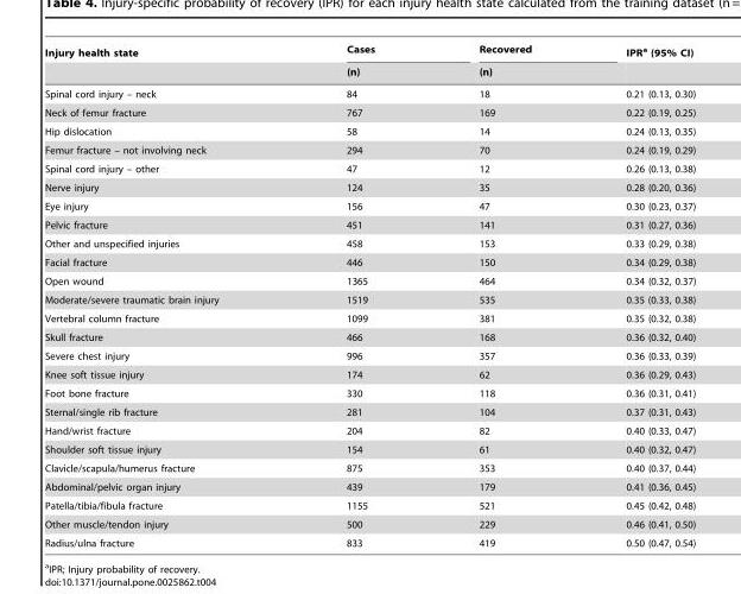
<table><thead><tr><td rowspan="2">Injury health state</td><td rowspan="2">Cases (n)</td><td rowspan="2">Recovered (n)</td><td rowspan="2">IPR<sup>a</sup> (95% CI)</td></tr><tr></tr></thead><tbody><tr><td>Spinal cord injury – neck</td><td>84</td><td>18</td><td>0.21 (0.13, 0.30)</td></tr><tr><td>Neck of femur fracture</td><td>767</td><td>169</td><td>0.22 (0.19, 0.25)</td></tr><tr><td>Hip dislocation</td><td>58</td><td>14</td><td>0.24 (0.13, 0.35)</td></tr><tr><td>Femur fracture – not involving neck</td><td>294</td><td>70</td><td>0.24 (0.19, 0.29)</td></tr><tr><td>Spinal cord injury – other</td><td>47</td><td>12</td><td>0.26 (0.13, 0.38)</td></tr><tr><td>Nerve injury</td><td>124</td><td>35</td><td>0.28 (0.20, 0.36)</td></tr><tr><td>Eye injury</td><td>156</td><td>47</td><td>0.30 (0.23, 0.37)</td></tr><tr><td>Pelvic fracture</td><td>451</td><td>141</td><td>0.31 (0.27, 0.36)</td></tr><tr><td>Other and unspecified injuries</td><td>458</td><td>153</td><td>0.33 (0.29, 0.38)</td></tr><tr><td>Facial fracture</td><td>446</td><td>150</td><td>0.34 (0.29, 0.38)</td></tr><tr><td>Open wound</td><td>1365</td><td>464</td><td>0.34 (0.32, 0.37)</td></tr><tr><td>Moderate/severe traumatic brain injury</td><td>1519</td><td>535</td><td>0.35 (0.33, 0.38)</td></tr><tr><td>Vertebral column fracture</td><td>1099</td><td>381</td><td>0.35 (0.32, 0.38)</td></tr><tr><td>Skull fracture</td><td>466</td><td>168</td><td>0.36 (0.32, 0.40)</td></tr><tr><td>Severe chest injury</td><td>996</td><td>357</td><td>0.36 (0.33, 0.39)</td></tr><tr><td>Knee soft tissue injury</td><td>174</td><td>62</td><td>0.36 (0.29, 0.43)</td></tr><tr><td>Foot bone fracture</td><td>330</td><td>118</td><td>0.36 (0.31, 0.41)</td></tr><tr><td>Sternal/single rib fracture</td><td>281</td><td>104</td><td>0.37 (0.31, 0.43)</td></tr><tr><td>Hand/wrist fracture</td><td>204</td><td>82</td><td>0.40 (0.33, 0.47)</td></tr><tr><td>Shoulder soft tissue injury</td><td>154</td><td>61</td><td>0.40 (0.32, 0.47)</td></tr><tr><td>Clavicle/scapula/humerus fracture</td><td>875</td><td>353</td><td>0.40 (0.37, 0.44)</td></tr><tr><td>Abdominal/pelvic organ injury</td><td>439</td><td>179</td><td>0.41 (0.36, 0.45)</td></tr><tr><td>Patella/tibia/fibula fracture</td><td>1155</td><td>521</td><td>0.45 (0.42, 0.48)</td></tr><tr><td>Other muscle/tendon injury</td><td>500</td><td>229</td><td>0.46 (0.41, 0.50)</td></tr><tr><td>Radius/ulna fracture</td><td>833</td><td>419</td><td>0.50 (0.47, 0.54)</td></tr></tbody></table>